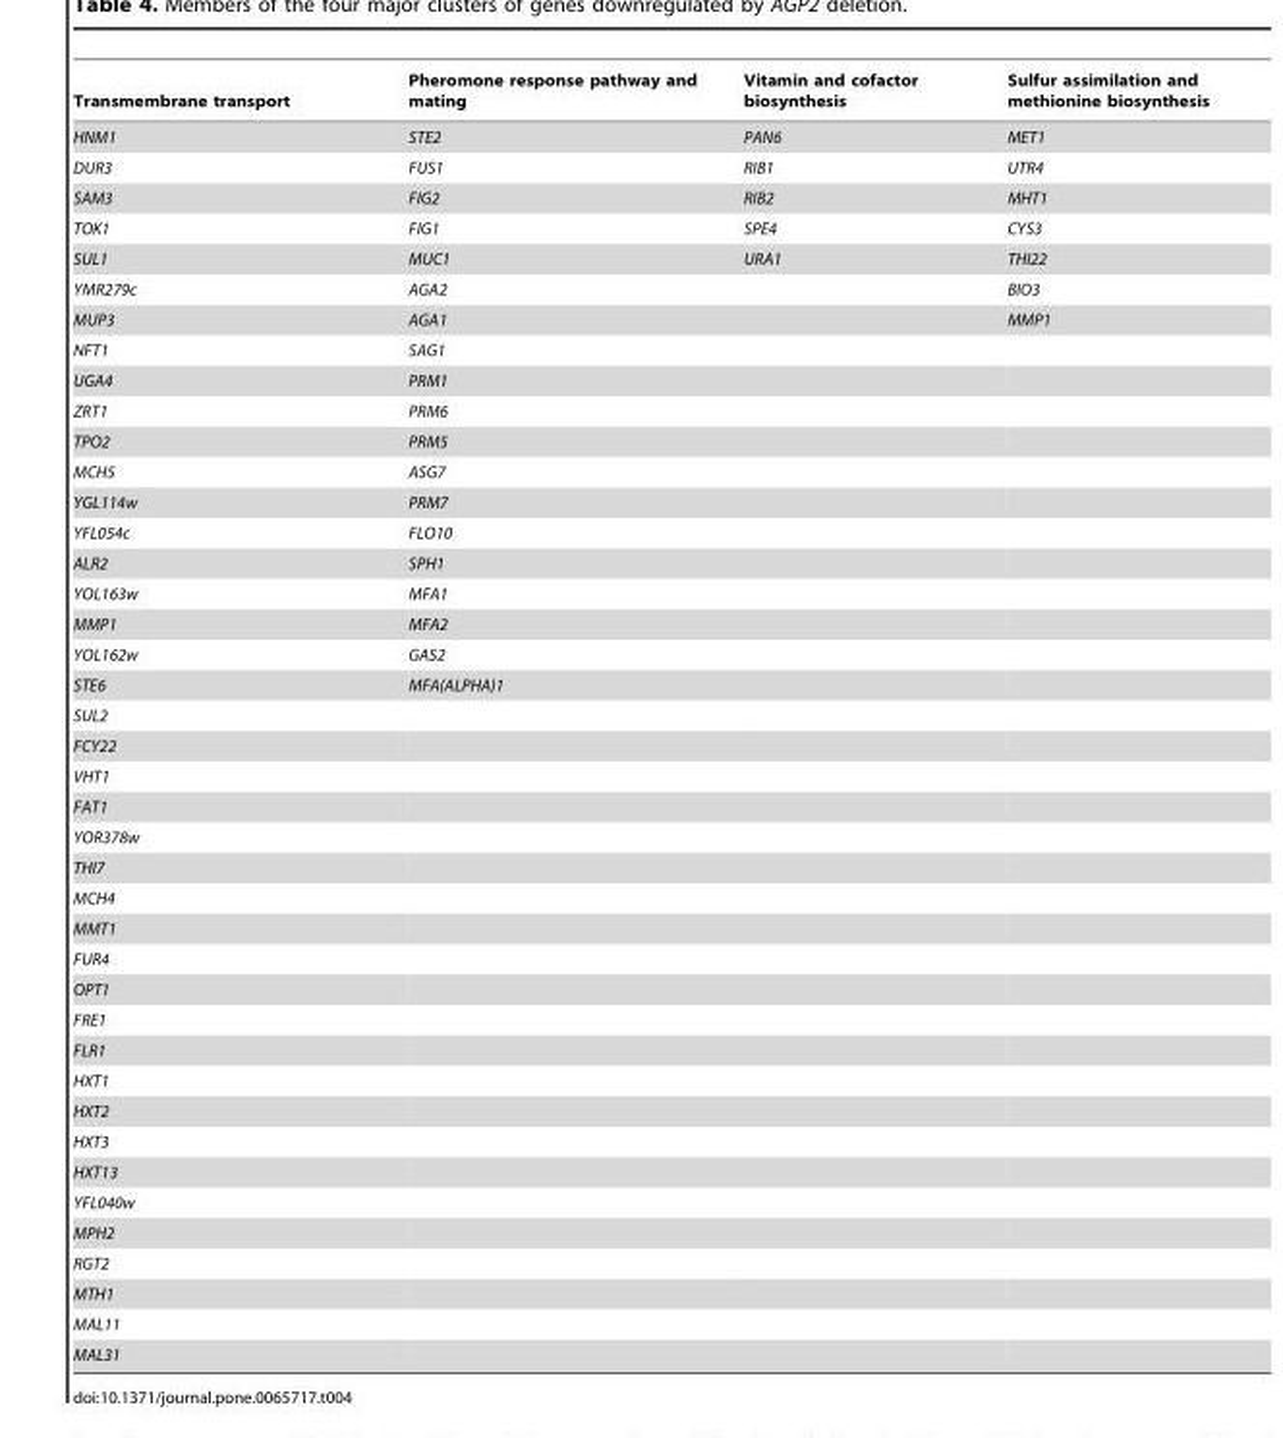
<table><thead><tr><td>Transmembrane transport</td><td>Pheromone response pathway and mating</td><td>Vitamin and cofactor biosynthesis</td><td>Sulfur assimilation and methionine biosynthesis</td></tr></thead><tbody><tr><td>HNM1</td><td>STE2</td><td>PAN6</td><td>MET1</td></tr><tr><td>DUR3</td><td>FUS1</td><td>RIB1</td><td>UTR4</td></tr><tr><td>SAM3</td><td>FIG2</td><td>RIB2</td><td>MHT1</td></tr><tr><td>TOK1</td><td>FIG1</td><td>SPE4</td><td>CYS3</td></tr><tr><td>SUL1</td><td>MUC1</td><td>URA1</td><td>THI22</td></tr><tr><td>YMR279c</td><td>AGA2</td><td></td><td>BIO3</td></tr><tr><td>MUP3</td><td>AGA1</td><td></td><td>MMP1</td></tr><tr><td>NFT1</td><td>SAG1</td><td></td><td></td></tr><tr><td>UGA4</td><td>PRM1</td><td></td><td></td></tr><tr><td>ZRT1</td><td>PRM6</td><td></td><td></td></tr><tr><td>TPO2</td><td>PRM5</td><td></td><td></td></tr><tr><td>MCH5</td><td>ASG7</td><td></td><td></td></tr><tr><td>YGL114w</td><td>PRM7</td><td></td><td></td></tr><tr><td>YFL054c</td><td>FLO10</td><td></td><td></td></tr><tr><td>ALR2</td><td>SPH1</td><td></td><td></td></tr><tr><td>YOL163w</td><td>MFA1</td><td></td><td></td></tr><tr><td>MMP1</td><td>MFA2</td><td></td><td></td></tr><tr><td>YOL162w</td><td>GAS2</td><td></td><td></td></tr><tr><td>STE6</td><td>MFA(ALPHA)1</td><td></td><td></td></tr><tr><td colspan="4">SUL2</td></tr><tr><td colspan="4">FCY22</td></tr><tr><td colspan="4">VHT1</td></tr><tr><td colspan="4">FAT1</td></tr><tr><td colspan="4">YOR378w</td></tr><tr><td colspan="4">THI7</td></tr><tr><td colspan="4">MCH4</td></tr><tr><td colspan="4">MMT1</td></tr><tr><td colspan="4">FUR4</td></tr><tr><td colspan="4">OPT1</td></tr><tr><td colspan="4">FRE1</td></tr><tr><td colspan="4">FLR1</td></tr><tr><td colspan="4">HXT1</td></tr><tr><td colspan="4">HXT2</td></tr><tr><td colspan="4">HXT3</td></tr><tr><td colspan="4">HXT13</td></tr><tr><td colspan="4">YFL040w</td></tr><tr><td colspan="4">MPH2</td></tr><tr><td colspan="4">RGT2</td></tr><tr><td colspan="4">MTH1</td></tr><tr><td colspan="4">MAL11</td></tr><tr><td>MAL31</td><td></td><td></td><td></td></tr></tbody></table>